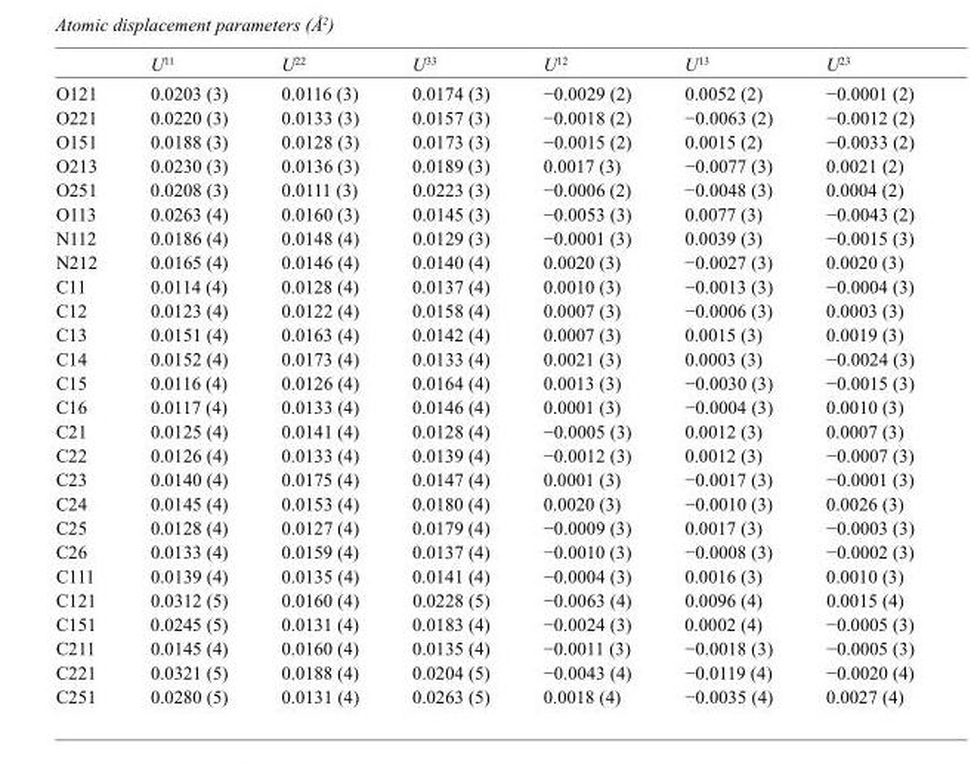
<table><thead><tr><td></td><td>U<sup>11</sup></td><td>U<sup>22</sup></td><td>U<sup>33</sup></td><td>U<sup>12</sup></td><td>U<sup>13</sup></td><td>U<sup>23</sup></td></tr></thead><tbody><tr><td>O121</td><td>0.0203 (3)</td><td>0.0116 (3)</td><td>0.0174 (3)</td><td>−0.0029 (2)</td><td>0.0052 (2)</td><td>−0.0001 (2)</td></tr><tr><td>O221</td><td>0.0220 (3)</td><td>0.0133 (3)</td><td>0.0157 (3)</td><td>−0.0018 (2)</td><td>−0.0063 (2)</td><td>−0.0012 (2)</td></tr><tr><td>O151</td><td>0.0188 (3)</td><td>0.0128 (3)</td><td>0.0173 (3)</td><td>−0.0015 (2)</td><td>0.0015 (2)</td><td>−0.0033 (2)</td></tr><tr><td>O213</td><td>0.0230 (3)</td><td>0.0136 (3)</td><td>0.0189 (3)</td><td>0.0017 (3)</td><td>−0.0077 (3)</td><td>0.0021 (2)</td></tr><tr><td>O251</td><td>0.0208 (3)</td><td>0.0111 (3)</td><td>0.0223 (3)</td><td>−0.0006 (2)</td><td>−0.0048 (3)</td><td>0.0004 (2)</td></tr><tr><td>O113</td><td>0.0263 (4)</td><td>0.0160 (3)</td><td>0.0145 (3)</td><td>−0.0053 (3)</td><td>0.0077 (3)</td><td>−0.0043 (2)</td></tr><tr><td>N112</td><td>0.0186 (4)</td><td>0.0148 (4)</td><td>0.0129 (3)</td><td>−0.0001 (3)</td><td>0.0039 (3)</td><td>−0.0015 (3)</td></tr><tr><td>N212</td><td>0.0165 (4)</td><td>0.0146 (4)</td><td>0.0140 (4)</td><td>0.0020 (3)</td><td>−0.0027 (3)</td><td>0.0020 (3)</td></tr><tr><td>C11</td><td>0.0114 (4)</td><td>0.0128 (4)</td><td>0.0137 (4)</td><td>0.0010 (3)</td><td>−0.0013 (3)</td><td>−0.0004 (3)</td></tr><tr><td>C12</td><td>0.0123 (4)</td><td>0.0122 (4)</td><td>0.0158 (4)</td><td>0.0007 (3)</td><td>−0.0006 (3)</td><td>0.0003 (3)</td></tr><tr><td>C13</td><td>0.0151 (4)</td><td>0.0163 (4)</td><td>0.0142 (4)</td><td>0.0007 (3)</td><td>0.0015 (3)</td><td>0.0019 (3)</td></tr><tr><td>C14</td><td>0.0152 (4)</td><td>0.0173 (4)</td><td>0.0133 (4)</td><td>0.0021 (3)</td><td>0.0003 (3)</td><td>−0.0024 (3)</td></tr><tr><td>C15</td><td>0.0116 (4)</td><td>0.0126 (4)</td><td>0.0164 (4)</td><td>0.0013 (3)</td><td>−0.0030 (3)</td><td>−0.0015 (3)</td></tr><tr><td>C16</td><td>0.0117 (4)</td><td>0.0133 (4)</td><td>0.0146 (4)</td><td>0.0001 (3)</td><td>−0.0004 (3)</td><td>0.0010 (3)</td></tr><tr><td>C21</td><td>0.0125 (4)</td><td>0.0141 (4)</td><td>0.0128 (4)</td><td>−0.0005 (3)</td><td>0.0012 (3)</td><td>0.0007 (3)</td></tr><tr><td>C22</td><td>0.0126 (4)</td><td>0.0133 (4)</td><td>0.0139 (4)</td><td>−0.0012 (3)</td><td>0.0012 (3)</td><td>−0.0007 (3)</td></tr><tr><td>C23</td><td>0.0140 (4)</td><td>0.0175 (4)</td><td>0.0147 (4)</td><td>0.0001 (3)</td><td>−0.0017 (3)</td><td>−0.0001 (3)</td></tr><tr><td>C24</td><td>0.0145 (4)</td><td>0.0153 (4)</td><td>0.0180 (4)</td><td>0.0020 (3)</td><td>−0.0010 (3)</td><td>0.0026 (3)</td></tr><tr><td>C25</td><td>0.0128 (4)</td><td>0.0127 (4)</td><td>0.0179 (4)</td><td>−0.0009 (3)</td><td>0.0017 (3)</td><td>−0.0003 (3)</td></tr><tr><td>C26</td><td>0.0133 (4)</td><td>0.0159 (4)</td><td>0.0137 (4)</td><td>−0.0010 (3)</td><td>−0.0008 (3)</td><td>−0.0002 (3)</td></tr><tr><td>C111</td><td>0.0139 (4)</td><td>0.0135 (4)</td><td>0.0141 (4)</td><td>−0.0004 (3)</td><td>0.0016 (3)</td><td>0.0010 (3)</td></tr><tr><td>C121</td><td>0.0312 (5)</td><td>0.0160 (4)</td><td>0.0228 (5)</td><td>−0.0063 (4)</td><td>0.0096 (4)</td><td>0.0015 (4)</td></tr><tr><td>C151</td><td>0.0245 (5)</td><td>0.0131 (4)</td><td>0.0183 (4)</td><td>−0.0024 (3)</td><td>0.0002 (4)</td><td>−0.0005 (3)</td></tr><tr><td>C211</td><td>0.0145 (4)</td><td>0.0160 (4)</td><td>0.0135 (4)</td><td>−0.0011 (3)</td><td>−0.0018 (3)</td><td>−0.0005 (3)</td></tr><tr><td>C221</td><td>0.0321 (5)</td><td>0.0188 (4)</td><td>0.0204 (5)</td><td>−0.0043 (4)</td><td>−0.0119 (4)</td><td>−0.0020 (4)</td></tr><tr><td>C251</td><td>0.0280 (5)</td><td>0.0131 (4)</td><td>0.0263 (5)</td><td>0.0018 (4)</td><td>−0.0035 (4)</td><td>0.0027 (4)</td></tr></tbody></table>